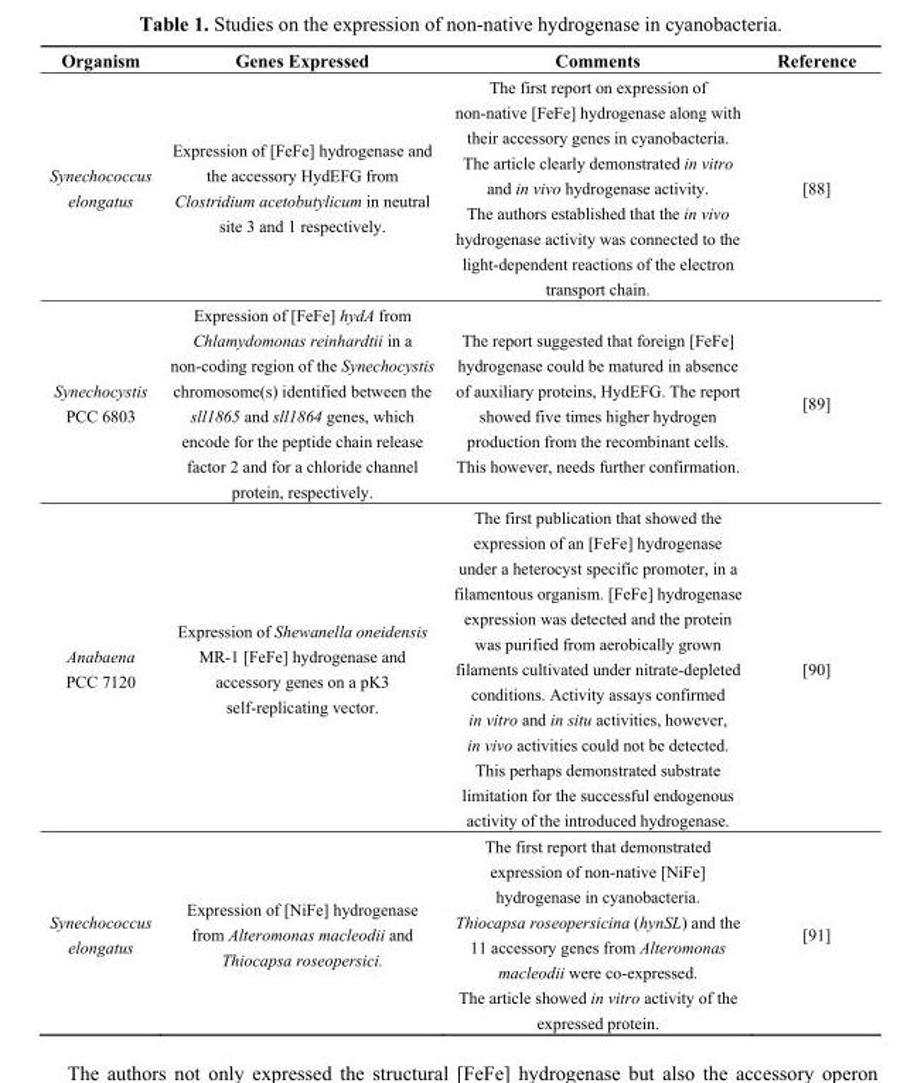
<table><thead><tr><td>Organism</td><td>Genes Expressed</td><td>Comments</td><td>Reference</td></tr></thead><tbody><tr><td>Synechococcus elongatus</td><td>Expression of [FeFe] hydrogenase and the accessory HydEFG from Clostridium acetobutylicum in neutral site 3 and 1 respectively.</td><td>The first report on expression of non-native [FeFe] hydrogenase along with their accessory genes in cyanobacteria. The article clearly demonstrated in vitro and in vivo hydrogenase activity. The authors established that the in vivo hydrogenase activity was connected to the light-dependent reactions of the electron transport chain.</td><td>[88]</td></tr><tr><td>Synechocystis PCC 6803</td><td>Expression of [FeFe] hydA from Chlamydomonas reinhardtii in a non-coding region of the Synechocystis chromosome(s) identified between the sll1865 and sll1864 genes, which encode for the peptide chain release factor 2 and for a chloride channel protein, respectively.</td><td>The report suggested that foreign [FeFe] hydrogenase could be matured in absence of auxiliary proteins, HydEFG. The report showed five times higher hydrogen production from the recombinant cells. This however, needs further confirmation.</td><td>[89]</td></tr><tr><td>Anabaena PCC 7120</td><td>Expression of Shewanella oneidensis MR-1 [FeFe] hydrogenase and accessory genes on a pK3 self-replicating vector.</td><td>The first publication that showed the expression of an [FeFe] hydrogenase under a heterocyst specific promoter, in a filamentous organism. [FeFe] hydrogenase expression was detected and the protein was purified from aerobically grown filaments cultivated under nitrate-depleted conditions. Activity assays confirmed in vitro and in situ activities, however, in vivo activities could not be detected. This perhaps demonstrated substrate limitation for the successful endogenous activity of the introduced hydrogenase.</td><td>[90]</td></tr><tr><td>Synechococcus elongatus</td><td>Expression of [NiFe] hydrogenase from Alteromonas macleodii and Thiocapsa roseopersici.</td><td>The first report that demonstrated expression of non-native [NiFe] hydrogenase in cyanobacteria. Thiocapsa roseopersicina (hynSL) and the 11 accessory genes from Alteromonas macleodii were co-expressed. The article showed in vitro activity of the expressed protein.</td><td>[91]</td></tr></tbody></table>